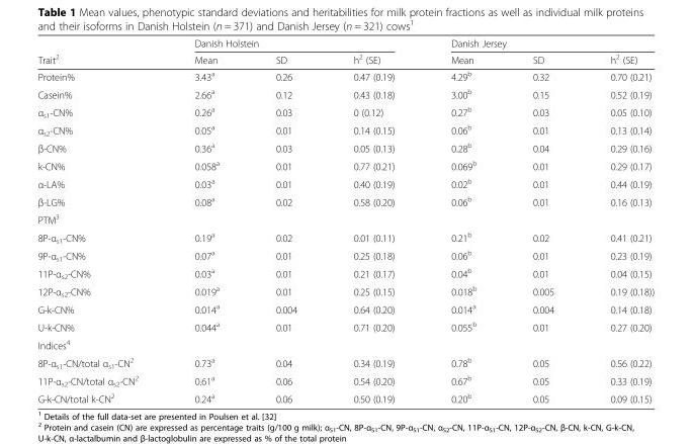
<table><thead><tr><td rowspan="2">Trait<sup>2</sup></td><td colspan="3">Danish Holstein</td><td colspan="3">Danish Jersey</td></tr><tr><td>Mean</td><td>SD</td><td>h<sup>2</sup> (SE)</td><td>Mean</td><td>SD</td><td>h<sup>2</sup> (SE)</td></tr></thead><tbody><tr><td>Protein%</td><td>3.43<sup>a</sup></td><td>0.26</td><td>0.47 (0.19)</td><td>4.29<sup>b</sup></td><td>0.32</td><td>0.70 (0.21)</td></tr><tr><td>Casein%</td><td>2.66<sup>a</sup></td><td>0.12</td><td>0.43 (0.18)</td><td>3.00<sup>b</sup></td><td>0.15</td><td>0.52 (0.19)</td></tr><tr><td>α<sub>s1</sub>-CN%</td><td>0.26<sup>a</sup></td><td>0.03</td><td>0 (0.12)</td><td>0.27<sup>b</sup></td><td>0.03</td><td>0.05 (0.10)</td></tr><tr><td>α<sub>s2</sub>-CN%</td><td>0.05<sup>a</sup></td><td>0.01</td><td>0.14 (0.15)</td><td>0.06<sup>b</sup></td><td>0.01</td><td>0.13 (0.14)</td></tr><tr><td>β-CN%</td><td>0.36<sup>a</sup></td><td>0.03</td><td>0.05 (0.13)</td><td>0.28<sup>b</sup></td><td>0.04</td><td>0.29 (0.16)</td></tr><tr><td>k-CN%</td><td>0.058<sup>a</sup></td><td>0.01</td><td>0.77 (0.21)</td><td>0.069<sup>b</sup></td><td>0.01</td><td>0.29 (0.17)</td></tr><tr><td>α-LA%</td><td>0.03<sup>a</sup></td><td>0.01</td><td>0.40 (0.19)</td><td>0.02<sup>b</sup></td><td>0.01</td><td>0.44 (0.19)</td></tr><tr><td>β-LG%</td><td>0.08<sup>a</sup></td><td>0.02</td><td>0.58 (0.20)</td><td>0.06<sup>b</sup></td><td>0.01</td><td>0.16 (0.13)</td></tr><tr><td colspan="7">PTM<sup>3</sup></td></tr><tr><td>8P-α<sub>s1</sub>-CN%</td><td>0.19<sup>a</sup></td><td>0.02</td><td>0.01 (0.11)</td><td>0.21<sup>b</sup></td><td>0.02</td><td>0.41 (0.21)</td></tr><tr><td>9P-α<sub>s1</sub>-CN%</td><td>0.07<sup>a</sup></td><td>0.01</td><td>0.25 (0.18)</td><td>0.06<sup>b</sup></td><td>0.01</td><td>0.23 (0.19)</td></tr><tr><td>11P-α<sub>s2</sub>-CN%</td><td>0.03<sup>a</sup></td><td>0.01</td><td>0.21 (0.17)</td><td>0.04<sup>b</sup></td><td>0.01</td><td>0.04 (0.15)</td></tr><tr><td>12P-α<sub>s2</sub>-CN%</td><td>0.019<sup>a</sup></td><td>0.01</td><td>0.25 (0.15)</td><td>0.018<sup>b</sup></td><td>0.005</td><td>0.19 (0.18))</td></tr><tr><td>G-k-CN%</td><td>0.014<sup>a</sup></td><td>0.004</td><td>0.64 (0.20)</td><td>0.014<sup>a</sup></td><td>0.004</td><td>0.14 (0.18)</td></tr><tr><td>U-k-CN%</td><td>0.044<sup>a</sup></td><td>0.01</td><td>0.71 (0.20)</td><td>0.055<sup>b</sup></td><td>0.01</td><td>0.27 (0.20)</td></tr><tr><td colspan="7">Indices<sup>4</sup></td></tr><tr><td>8P-α<sub>s1</sub>-CN/total α<sub>s1</sub>-CN<sup>2</sup></td><td>0.73<sup>a</sup></td><td>0.04</td><td>0.34 (0.19)</td><td>0.78<sup>b</sup></td><td>0.05</td><td>0.56 (0.22)</td></tr><tr><td>11P-α<sub>s2</sub>-CN/total α<sub>s2</sub>-CN<sup>2</sup></td><td>0.61<sup>a</sup></td><td>0.06</td><td>0.54 (0.20)</td><td>0.67<sup>b</sup></td><td>0.05</td><td>0.33 (0.19)</td></tr><tr><td>G-k-CN/total k-CN<sup>2</sup></td><td>0.24<sup>a</sup></td><td>0.06</td><td>0.50 (0.19)</td><td>0.20<sup>b</sup></td><td>0.05</td><td>0.09 (0.15)</td></tr></tbody></table>